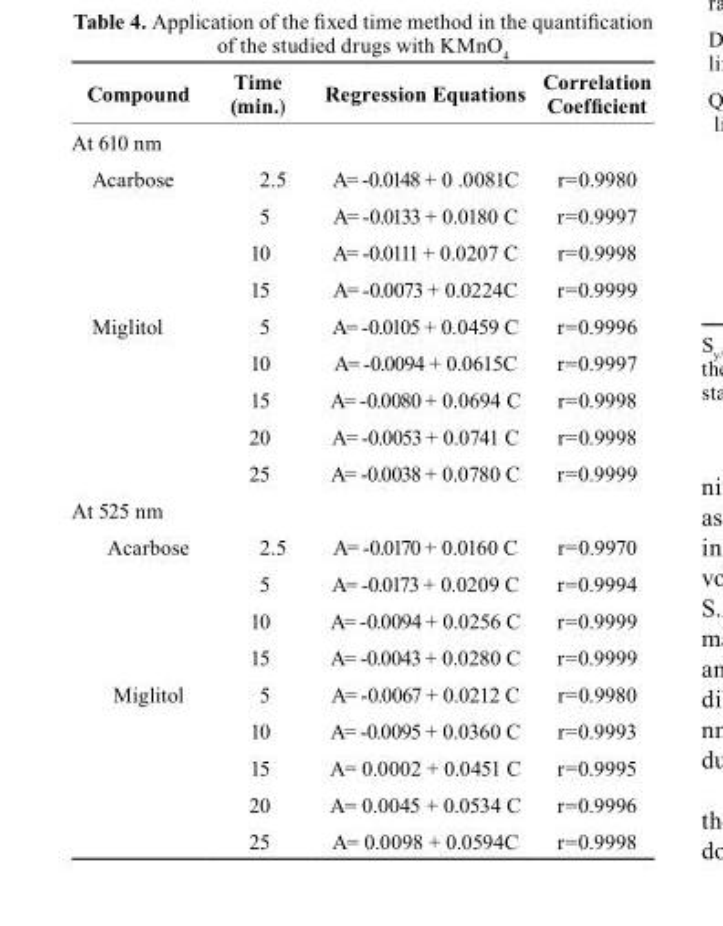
<table><thead><tr><td>compound</td><td>time (min.)</td><td>regression Equations</td><td>correlation Coefficient</td></tr></thead><tbody><tr><td colspan="4">At 610 nm</td></tr><tr><td rowspan="4">Acarbose</td><td>2.5</td><td>A= -0.0148 + 0 .0081C</td><td>r=0.9980</td></tr><tr><td>5</td><td>A= -0.0133 + 0.0180 C</td><td>r=0.9997</td></tr><tr><td>10</td><td>A= -0.0111 + 0.0207 C</td><td>r=0.9998</td></tr><tr><td>15</td><td>A= -0.0073 + 0.0224C</td><td>r=0.9999</td></tr><tr><td rowspan="5">Miglitol</td><td>5</td><td>A= -0.0105 + 0.0459 C</td><td>r=0.9996</td></tr><tr><td>10</td><td>A= -0.0094 + 0.0615C</td><td>r=0.9997</td></tr><tr><td>15</td><td>A= -0.0080 + 0.0694 C</td><td>r=0.9998</td></tr><tr><td>20</td><td>A= -0.0053 + 0.0741 C</td><td>r=0.9998</td></tr><tr><td>25</td><td>A= -0.0038 + 0.0780 C</td><td>r=0.9999</td></tr><tr><td colspan="4">At 525 nm</td></tr><tr><td rowspan="4">Acarbose</td><td>2.5</td><td>A= -0.0170 + 0.0160 C</td><td>r=0.9970</td></tr><tr><td>5</td><td>A= -0.0173 + 0.0209 C</td><td>r=0.9994</td></tr><tr><td>10</td><td>A= -0.0094 + 0.0256 C</td><td>r=0.9999</td></tr><tr><td>15</td><td>A= -0.0043 + 0.0280 C</td><td>r=0.9999</td></tr><tr><td rowspan="5">Miglitol</td><td>5</td><td>A= -0.0067 + 0.0212 C</td><td>r=0.9980</td></tr><tr><td>10</td><td>A= -0.0095 + 0.0360 C</td><td>r=0.9993</td></tr><tr><td>15</td><td>A= 0.0002 + 0.0451 C</td><td>r=0.9995</td></tr><tr><td>20</td><td>A= 0.0045 + 0.0534 C</td><td>r=0.9996</td></tr><tr><td>25</td><td>A= 0.0098 + 0.0594C</td><td>r=0.9998</td></tr></tbody></table>